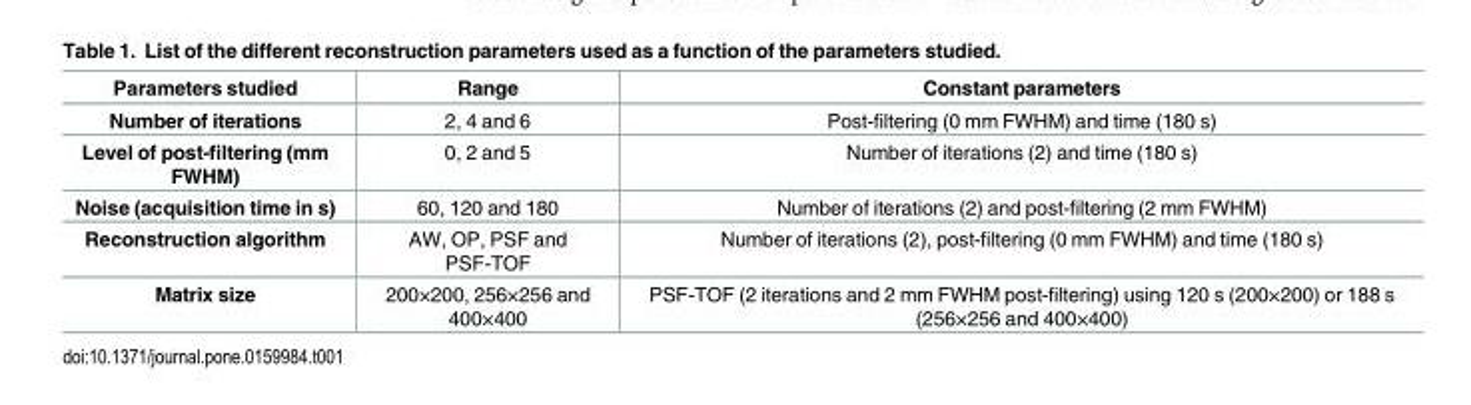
<table><thead><tr><td>Parameters studied</td><td>Range</td><td>Constant parameters</td></tr></thead><tbody><tr><td>Number of iterations</td><td>2, 4 and 6</td><td>Post-filtering (0 mm FWHM) and time (180 s)</td></tr><tr><td>Level of post-filtering (mm FWHM)</td><td>0, 2 and 5</td><td>Number of iterations (2) and time (180 s)</td></tr><tr><td>Noise (acquisition time in s)</td><td>60, 120 and 180</td><td>Number of iterations (2) and post-filtering (2 mm FWHM)</td></tr><tr><td>Reconstruction algorithm</td><td>AW, OP, PSF and PSF-TOF</td><td>Number of iterations (2), post-filtering (0 mm FWHM) and time (180 s)</td></tr><tr><td>Matrix size</td><td>200×200, 256×256 and 400×400</td><td>PSF-TOF (2 iterations and 2 mm FWHM post-filtering) using 120 s (200×200) or 188 s (256×256 and 400×400)</td></tr></tbody></table>